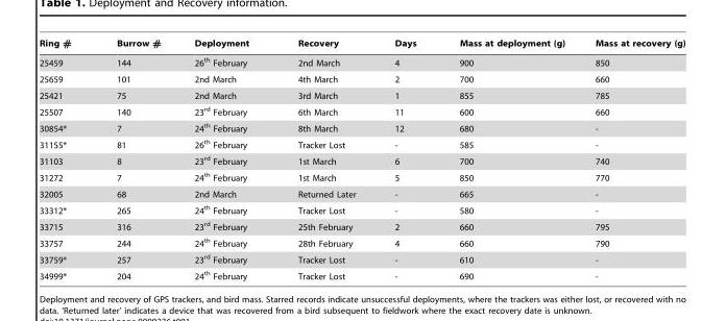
<table><thead><tr><td>Ring #</td><td>Burrow #</td><td>Deployment</td><td>Recovery</td><td>Days</td><td>Mass at deployment (g)</td><td>Mass at recovery (g)</td></tr></thead><tbody><tr><td>25459</td><td>144</td><td>26<sup>th</sup> February</td><td>2nd March</td><td>4</td><td>900</td><td>850</td></tr><tr><td>25659</td><td>101</td><td>2nd March</td><td>4th March</td><td>2</td><td>700</td><td>660</td></tr><tr><td>25421</td><td>75</td><td>2nd March</td><td>3rd March</td><td>1</td><td>855</td><td>785</td></tr><tr><td>25507</td><td>140</td><td>23<sup>rd</sup> February</td><td>6th March</td><td>11</td><td>600</td><td>660</td></tr><tr><td>30854*</td><td>7</td><td>24<sup>th</sup> February</td><td>8th March</td><td>12</td><td>680</td><td>-</td></tr><tr><td>31155*</td><td>81</td><td>26<sup>th</sup> February</td><td>Tracker Lost</td><td>-</td><td>585</td><td>-</td></tr><tr><td>31103</td><td>8</td><td>23<sup>rd</sup> February</td><td>1st March</td><td>6</td><td>700</td><td>740</td></tr><tr><td>31272</td><td>7</td><td>24<sup>th</sup> February</td><td>1st March</td><td>5</td><td>850</td><td>770</td></tr><tr><td>32005</td><td>68</td><td>2nd March</td><td>Returned Later</td><td>-</td><td>665</td><td>-</td></tr><tr><td>33312*</td><td>265</td><td>24<sup>th</sup> February</td><td>Tracker Lost</td><td>-</td><td>580</td><td>-</td></tr><tr><td>33715</td><td>316</td><td>23<sup>rd</sup> February</td><td>25th February</td><td>2</td><td>660</td><td>795</td></tr><tr><td>33757</td><td>244</td><td>24<sup>th</sup> February</td><td>28th February</td><td>4</td><td>660</td><td>790</td></tr><tr><td>33759*</td><td>257</td><td>23<sup>rd</sup> February</td><td>Tracker Lost</td><td>-</td><td>610</td><td>-</td></tr><tr><td>34999*</td><td>204</td><td>24<sup>th</sup> February</td><td>Tracker Lost</td><td>-</td><td>690</td><td>-</td></tr></tbody></table>